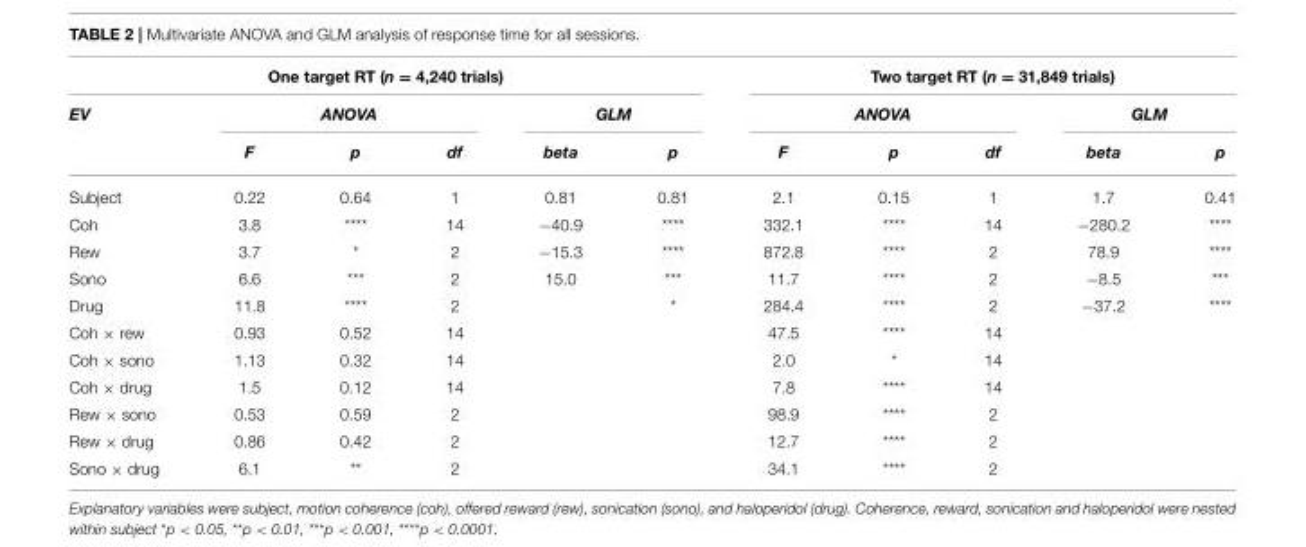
<table><thead><tr><td colspan="6">One target RT (n = 4,240 trials)</td><td colspan="5">Two target RT (n = 31,849 trials)</td></tr><tr><td rowspan="2">EV</td><td colspan="3">ANOVA</td><td colspan="2">GLM</td><td colspan="3">ANOVA</td><td colspan="2">GLM</td></tr><tr><td>F</td><td>p</td><td>df</td><td>beta</td><td>p</td><td>F</td><td>p</td><td>df</td><td>beta</td><td>p</td></tr></thead><tbody><tr><td>Subject</td><td>0.22</td><td>0.64</td><td>1</td><td>0.81</td><td>0.81</td><td>2.1</td><td>0.15</td><td>1</td><td>1.7</td><td>0.41</td></tr><tr><td>Coh</td><td>3.8</td><td>****</td><td>14</td><td>−40.9</td><td>****</td><td>332.1</td><td>****</td><td>14</td><td>−280.2</td><td>****</td></tr><tr><td>Rew</td><td>3.7</td><td>*</td><td>2</td><td>−15.3</td><td>****</td><td>872.8</td><td>****</td><td>2</td><td>78.9</td><td>****</td></tr><tr><td>Sono</td><td>6.6</td><td>***</td><td>2</td><td>15.0</td><td>***</td><td>11.7</td><td>****</td><td>2</td><td>−8.5</td><td>***</td></tr><tr><td>Drug</td><td>11.8</td><td>****</td><td>2</td><td></td><td>*</td><td>284.4</td><td>****</td><td>2</td><td>−37.2</td><td>****</td></tr><tr><td>Coh × rew</td><td>0.93</td><td>0.52</td><td>14</td><td></td><td></td><td>47.5</td><td>****</td><td>14</td><td></td><td></td></tr><tr><td>Coh × sono</td><td>1.13</td><td>0.32</td><td>14</td><td></td><td></td><td>2.0</td><td>*</td><td>14</td><td></td><td></td></tr><tr><td>Coh × drug</td><td>1.5</td><td>0.12</td><td>14</td><td></td><td></td><td>7.8</td><td>****</td><td>14</td><td></td><td></td></tr><tr><td>Rew × sono</td><td>0.53</td><td>0.59</td><td>2</td><td></td><td></td><td>98.9</td><td>****</td><td>2</td><td></td><td></td></tr><tr><td>Rew × drug</td><td>0.86</td><td>0.42</td><td>2</td><td></td><td></td><td>12.7</td><td>****</td><td>2</td><td></td><td></td></tr><tr><td>Sono × drug</td><td>6.1</td><td>**</td><td>2</td><td></td><td></td><td>34.1</td><td>****</td><td>2</td><td></td><td></td></tr></tbody></table>